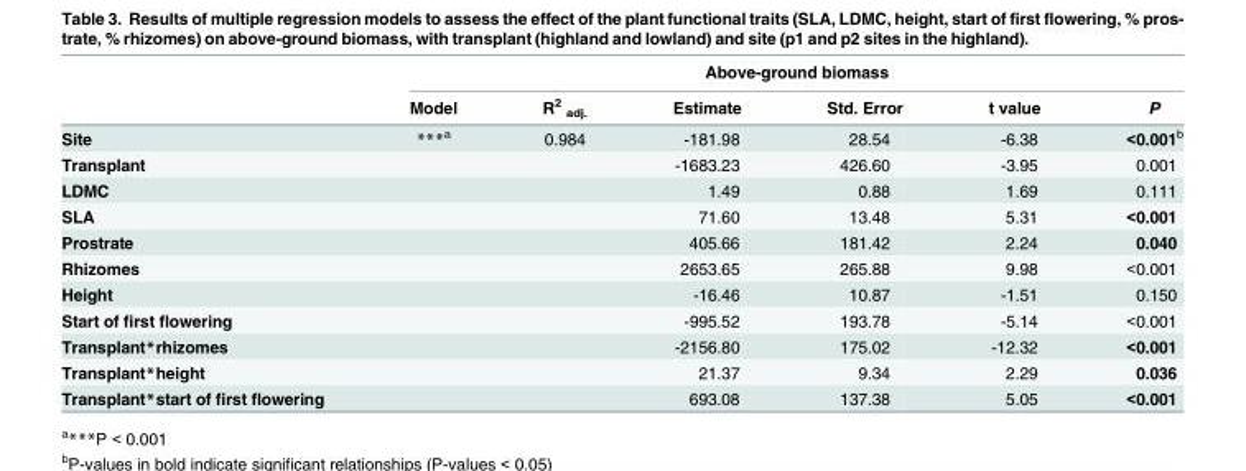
<table><thead><tr><td rowspan="2"></td><td colspan="6">Above-ground biomass</td></tr><tr><td>Model</td><td>R<sup>2</sup> <sub>adj.</sub></td><td>Estimate</td><td>Std. Error</td><td>t value</td><td>P</td></tr></thead><tbody><tr><td>Site</td><td>***<sup>a</sup></td><td>0.984</td><td>-181.98</td><td>28.54</td><td>-6.38</td><td>&lt;0.001<sup>b</sup></td></tr><tr><td>Transplant</td><td></td><td></td><td>-1683.23</td><td>426.60</td><td>-3.95</td><td>0.001</td></tr><tr><td>LDMC</td><td></td><td></td><td>1.49</td><td>0.88</td><td>1.69</td><td>0.111</td></tr><tr><td>SLA</td><td></td><td></td><td>71.60</td><td>13.48</td><td>5.31</td><td>&lt;0.001</td></tr><tr><td>Prostrate</td><td></td><td></td><td>405.66</td><td>181.42</td><td>2.24</td><td>0.040</td></tr><tr><td>Rhizomes</td><td></td><td></td><td>2653.65</td><td>265.88</td><td>9.98</td><td>&lt;0.001</td></tr><tr><td>Height</td><td></td><td></td><td>-16.46</td><td>10.87</td><td>-1.51</td><td>0.150</td></tr><tr><td>Start of first flowering</td><td></td><td></td><td>-995.52</td><td>193.78</td><td>-5.14</td><td>&lt;0.001</td></tr><tr><td>Transplant*rhizomes</td><td></td><td></td><td>-2156.80</td><td>175.02</td><td>-12.32</td><td>&lt;0.001</td></tr><tr><td>Transplant*height</td><td></td><td></td><td>21.37</td><td>9.34</td><td>2.29</td><td>0.036</td></tr><tr><td>Transplant*start of first flowering</td><td></td><td></td><td>693.08</td><td>137.38</td><td>5.05</td><td>&lt;0.001</td></tr></tbody></table>